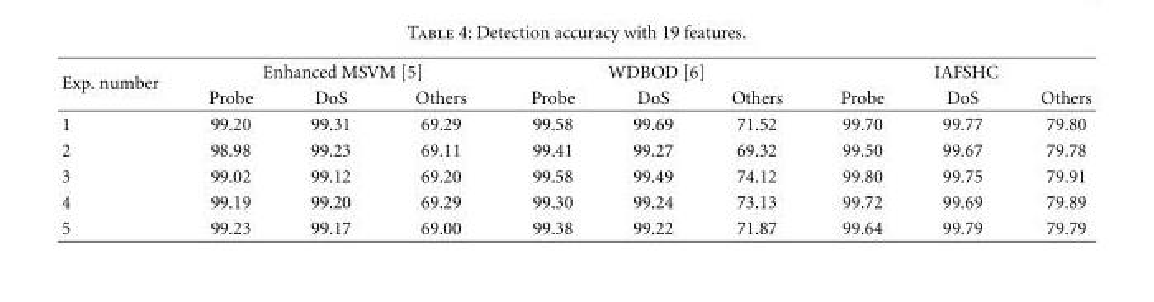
<table><thead><tr><td rowspan="2">Exp. number</td><td colspan="3">Enhanced MSVM [5]</td><td colspan="3">WDBOD [6]</td><td colspan="3">IAFSHC</td></tr><tr><td>Probe</td><td>DoS</td><td>Others</td><td>Probe</td><td>DoS</td><td>Others</td><td>Probe</td><td>DoS</td><td>Others</td></tr></thead><tbody><tr><td>1</td><td>99.20</td><td>99.31</td><td>69.29</td><td>99.58</td><td>99.69</td><td>71.52</td><td>99.70</td><td>99.77</td><td>79.80</td></tr><tr><td>2</td><td>98.98</td><td>99.23</td><td>69.11</td><td>99.41</td><td>99.27</td><td>69.32</td><td>99.50</td><td>99.67</td><td>79.78</td></tr><tr><td>3</td><td>99.02</td><td>99.12</td><td>69.20</td><td>99.58</td><td>99.49</td><td>74.12</td><td>99.80</td><td>99.75</td><td>79.91</td></tr><tr><td>4</td><td>99.19</td><td>99.20</td><td>69.29</td><td>99.30</td><td>99.24</td><td>73.13</td><td>99.72</td><td>99.69</td><td>79.89</td></tr><tr><td>5</td><td>99.23</td><td>99.17</td><td>69.00</td><td>99.38</td><td>99.22</td><td>71.87</td><td>99.64</td><td>99.79</td><td>79.79</td></tr></tbody></table>